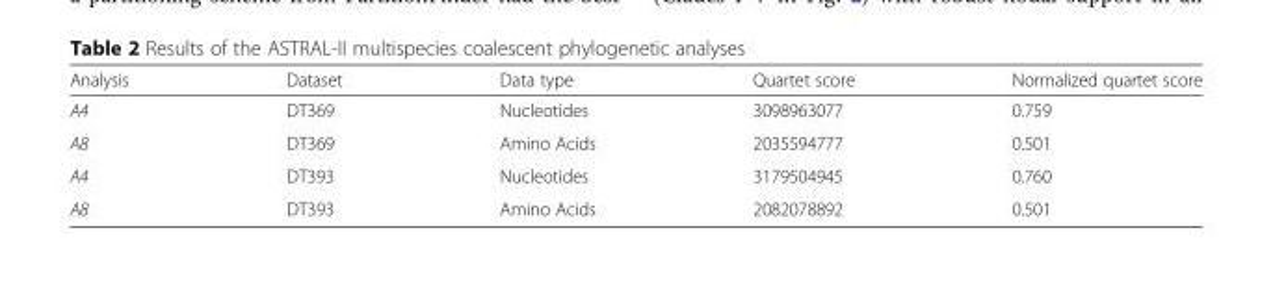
<table><thead><tr><td>Analysis</td><td>Dataset</td><td>Data type</td><td>Quartet score</td><td>Normalized quartet score</td></tr></thead><tbody><tr><td>A4</td><td>DT369</td><td>Nucleotides</td><td>3098963077</td><td>0.759</td></tr><tr><td>A8</td><td>DT369</td><td>Amino Acids</td><td>2035594777</td><td>0.501</td></tr><tr><td>A4</td><td>DT393</td><td>Nucleotides</td><td>3179504945</td><td>0.760</td></tr><tr><td>A8</td><td>DT393</td><td>Amino Acids</td><td>2082078892</td><td>0.501</td></tr></tbody></table>